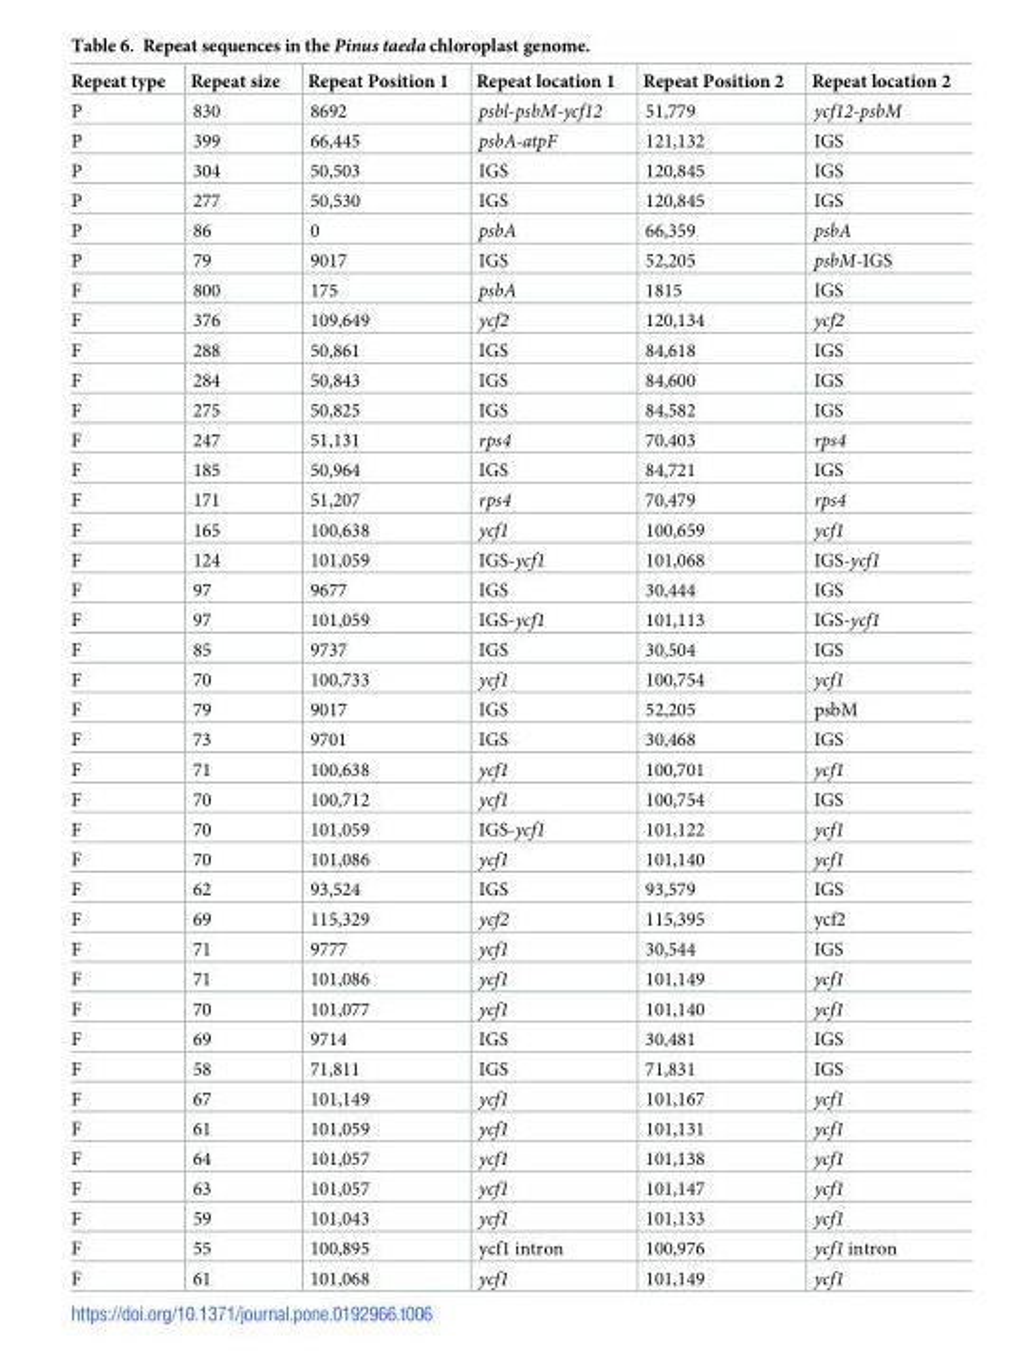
<table><thead><tr><td>Repeat type</td><td>Repeat size</td><td>Repeat Position 1</td><td>Repeat location 1</td><td>Repeat Position 2</td><td>Repeat location 2</td></tr></thead><tbody><tr><td>P</td><td>830</td><td>8692</td><td>psbl-psbM-ycf12</td><td>51,779</td><td>ycf12-psbM</td></tr><tr><td>P</td><td>399</td><td>66,445</td><td>psbA-atpF</td><td>121,132</td><td>IGS</td></tr><tr><td>P</td><td>304</td><td>50,503</td><td>IGS</td><td>120,845</td><td>IGS</td></tr><tr><td>P</td><td>277</td><td>50,530</td><td>IGS</td><td>120,845</td><td>IGS</td></tr><tr><td>P</td><td>86</td><td>0</td><td>psbA</td><td>66,359</td><td>psbA</td></tr><tr><td>P</td><td>79</td><td>9017</td><td>IGS</td><td>52,205</td><td>psbM-IGS</td></tr><tr><td>F</td><td>800</td><td>175</td><td>psbA</td><td>1815</td><td>IGS</td></tr><tr><td>F</td><td>376</td><td>109,649</td><td>ycf2</td><td>120,134</td><td>ycf2</td></tr><tr><td>F</td><td>288</td><td>50,861</td><td>IGS</td><td>84,618</td><td>IGS</td></tr><tr><td>F</td><td>284</td><td>50,843</td><td>IGS</td><td>84,600</td><td>IGS</td></tr><tr><td>F</td><td>275</td><td>50,825</td><td>IGS</td><td>84,582</td><td>IGS</td></tr><tr><td>F</td><td>247</td><td>51,131</td><td>rps4</td><td>70,403</td><td>rps4</td></tr><tr><td>F</td><td>185</td><td>50,964</td><td>IGS</td><td>84,721</td><td>IGS</td></tr><tr><td>F</td><td>171</td><td>51,207</td><td>rps4</td><td>70,479</td><td>rps4</td></tr><tr><td>F</td><td>165</td><td>100,638</td><td>ycf1</td><td>100,659</td><td>ycf1</td></tr><tr><td>F</td><td>124</td><td>101,059</td><td>IGS-ycf1</td><td>101,068</td><td>IGS-ycf1</td></tr><tr><td>F</td><td>97</td><td>9677</td><td>IGS</td><td>30,444</td><td>IGS</td></tr><tr><td>F</td><td>97</td><td>101,059</td><td>IGS-ycf1</td><td>101,113</td><td>IGS-ycf1</td></tr><tr><td>F</td><td>85</td><td>9737</td><td>IGS</td><td>30,504</td><td>IGS</td></tr><tr><td>F</td><td>70</td><td>100,733</td><td>ycf1</td><td>100,754</td><td>ycf1</td></tr><tr><td>F</td><td>79</td><td>9017</td><td>IGS</td><td>52,205</td><td>psbM</td></tr><tr><td>F</td><td>73</td><td>9701</td><td>IGS</td><td>30,468</td><td>IGS</td></tr><tr><td>F</td><td>71</td><td>100,638</td><td>ycf1</td><td>100,701</td><td>ycf1</td></tr><tr><td>F</td><td>70</td><td>100,712</td><td>ycf1</td><td>100,754</td><td>IGS</td></tr><tr><td>F</td><td>70</td><td>101,059</td><td>IGS-ycf1</td><td>101,122</td><td>ycf1</td></tr><tr><td>F</td><td>70</td><td>101,086</td><td>ycf1</td><td>101,140</td><td>ycf1</td></tr><tr><td>F</td><td>62</td><td>93,524</td><td>IGS</td><td>93,579</td><td>IGS</td></tr><tr><td>F</td><td>69</td><td>115,329</td><td>ycf2</td><td>115,395</td><td>ycf2</td></tr><tr><td>F</td><td>71</td><td>9777</td><td>ycf1</td><td>30,544</td><td>IGS</td></tr><tr><td>F</td><td>71</td><td>101,086</td><td>ycf1</td><td>101,149</td><td>ycf1</td></tr><tr><td>F</td><td>70</td><td>101,077</td><td>ycf1</td><td>101,140</td><td>ycf1</td></tr><tr><td>F</td><td>69</td><td>9714</td><td>IGS</td><td>30,481</td><td>IGS</td></tr><tr><td>F</td><td>58</td><td>71,811</td><td>IGS</td><td>71,831</td><td>IGS</td></tr><tr><td>F</td><td>67</td><td>101,149</td><td>ycf1</td><td>101,167</td><td>ycf1</td></tr><tr><td>F</td><td>61</td><td>101,059</td><td>ycf1</td><td>101,131</td><td>ycf1</td></tr><tr><td>F</td><td>64</td><td>101,057</td><td>ycf1</td><td>101,138</td><td>ycf1</td></tr><tr><td>F</td><td>63</td><td>101,057</td><td>ycf1</td><td>101,147</td><td>ycf1</td></tr><tr><td>F</td><td>59</td><td>101,043</td><td>ycf1</td><td>101,133</td><td>ycf1</td></tr><tr><td>F</td><td>55</td><td>100,895</td><td>ycf1 intron</td><td>100,976</td><td>ycf1 intron</td></tr><tr><td>F</td><td>61</td><td>101,068</td><td>ycf1</td><td>101,149</td><td>ycf1</td></tr></tbody></table>